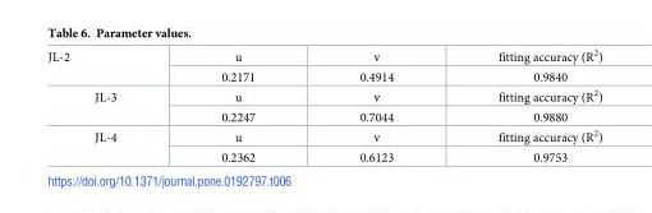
<table><tbody><tr><td rowspan="2">JL-2</td><td>u</td><td>v</td><td>fitting accuracy (R<sup>2</sup>)</td></tr><tr><td>0.2171</td><td>0.4914</td><td>0.9840</td></tr><tr><td rowspan="2">JL-3</td><td>u</td><td>v</td><td>fitting accuracy (R<sup>2</sup>)</td></tr><tr><td>0.2247</td><td>0.7044</td><td>0.9880</td></tr><tr><td rowspan="2">JL-4</td><td>u</td><td>v</td><td>fitting accuracy (R<sup>2</sup>)</td></tr><tr><td>0.2362</td><td>0.6123</td><td>0.9753</td></tr></tbody></table>